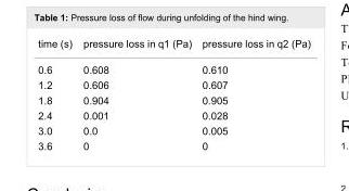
<table><tbody><tr><td>time (s)</td><td>pressure loss in q1 (Pa)</td><td>pressure loss in q2 (Pa)</td></tr><tr><td>0.6</td><td>0.608</td><td>0.610</td></tr><tr><td>1.2</td><td>0.606</td><td>0.607</td></tr><tr><td>1.8</td><td>0.904</td><td>0.905</td></tr><tr><td>2.4</td><td>0.001</td><td>0.028</td></tr><tr><td>3.0</td><td>0.0</td><td>0.005</td></tr><tr><td>3.6</td><td>0</td><td>0</td></tr></tbody></table>